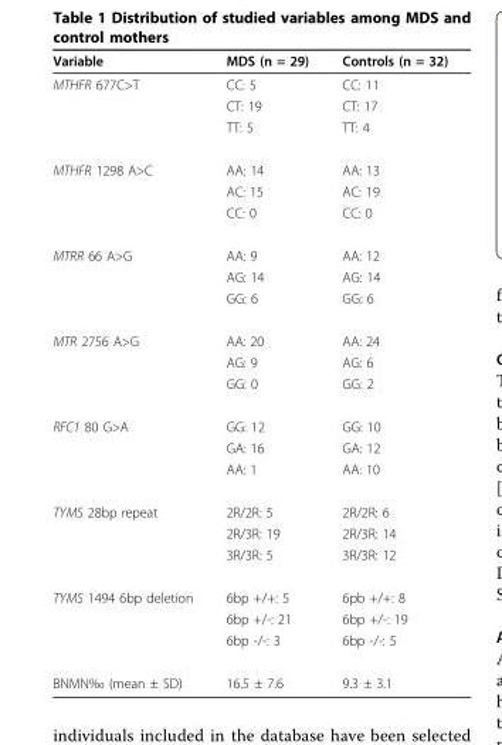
<table><thead><tr><td>Variable</td><td>MDS (n = 29)</td><td>Controls (n = 32)</td></tr></thead><tbody><tr><td rowspan="3">MTHFR 677C&gt;T</td><td>CC: 5</td><td>CC: 11</td></tr><tr><td>CT: 19</td><td>CT: 17</td></tr><tr><td>TT: 5</td><td>TT: 4</td></tr><tr><td rowspan="3">MTHFR 1298 A&gt;C</td><td>AA: 14</td><td>AA: 13</td></tr><tr><td>AC: 15</td><td>AC: 19</td></tr><tr><td>CC: 0</td><td>CC: 0</td></tr><tr><td rowspan="3">MTRR 66 A&gt;G</td><td>AA: 9</td><td>AA: 12</td></tr><tr><td>AG: 14</td><td>AG: 14</td></tr><tr><td>GG: 6</td><td>GG: 6</td></tr><tr><td rowspan="3">MTR 2756 A&gt;G</td><td>AA: 20</td><td>AA: 24</td></tr><tr><td>AG: 9</td><td>AG: 6</td></tr><tr><td>GG: 0</td><td>GG: 2</td></tr><tr><td rowspan="3">RFC1 80 G&gt;A</td><td>GG: 12</td><td>GG: 10</td></tr><tr><td>GA: 16</td><td>GA: 12</td></tr><tr><td>AA: 1</td><td>AA: 10</td></tr><tr><td rowspan="3">TYMS 28bp repeat</td><td>2R/2R: 5</td><td>2R/2R: 6</td></tr><tr><td>2R/3R: 19</td><td>2R/3R: 14</td></tr><tr><td>3R/3R: 5</td><td>3R/3R: 12</td></tr><tr><td rowspan="3">TYMS 1494 6bp deletion</td><td>6bp +/+: 5</td><td>6pb +/+: 8</td></tr><tr><td>6bp +/-: 21</td><td>6bp +/-: 19</td></tr><tr><td>6bp -/-: 3</td><td>6bp -/-: 5</td></tr><tr><td>BNMN‰ (mean ± SD)</td><td>16.5 ± 7.6</td><td>9.3 ± 3.1</td></tr></tbody></table>